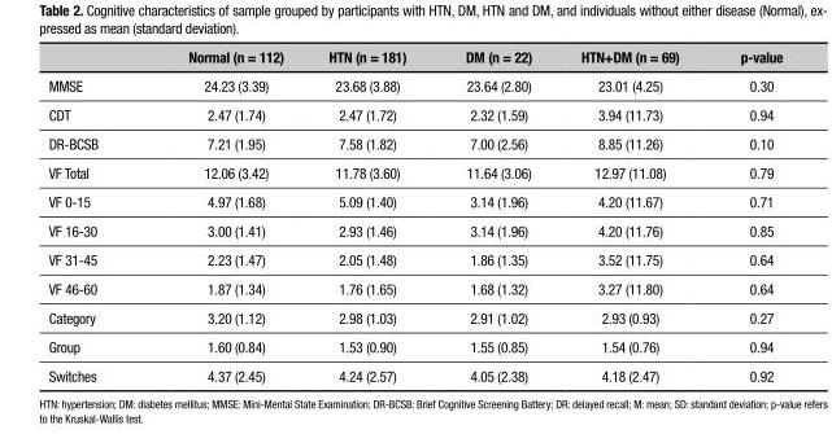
<table><thead><tr><td></td><td>Normal (n = 112)</td><td>HTN (n = 181)</td><td>DM (n = 22)</td><td>HTN+DM (n = 69)</td><td>p-value</td></tr></thead><tbody><tr><td>MMSE</td><td>24.23 (3.39)</td><td>23.68 (3.88)</td><td>23.64 (2.80)</td><td>23.01 (4.25)</td><td>0.30</td></tr><tr><td>CDT</td><td>2.47 (1.74)</td><td>2.47 (1.72)</td><td>2.32 (1.59)</td><td>3.94 (11.73)</td><td>0.94</td></tr><tr><td>DR-BCSB</td><td>7.21 (1.95)</td><td>7.58 (1.82)</td><td>7.00 (2.56)</td><td>8.85 (11.26)</td><td>0.10</td></tr><tr><td>VF Total</td><td>12.06 (3.42)</td><td>11.78 (3.60)</td><td>11.64 (3.06)</td><td>12.97 (11.08)</td><td>0.79</td></tr><tr><td>VF 0-15</td><td>4.97 (1.68)</td><td>5.09 (1.40)</td><td>3.14 (1.96)</td><td>4.20 (11.67)</td><td>0.71</td></tr><tr><td>VF 16-30</td><td>3.00 (1.41)</td><td>2.93 (1.46)</td><td>3.14 (1.96)</td><td>4.20 (11.76)</td><td>0.85</td></tr><tr><td>VF 31-45</td><td>2.23 (1.47)</td><td>2.05 (1.48)</td><td>1.86 (1.35)</td><td>3.52 (11.75)</td><td>0.64</td></tr><tr><td>VF 46-60</td><td>1.87 (1.34)</td><td>1.76 (1.65)</td><td>1.68 (1.32)</td><td>3.27 (11.80)</td><td>0.64</td></tr><tr><td>Category</td><td>3.20 (1.12)</td><td>2.98 (1.03)</td><td>2.91 (1.02)</td><td>2.93 (0.93)</td><td>0.27</td></tr><tr><td>Group</td><td>1.60 (0.84)</td><td>1.53 (0.90)</td><td>1.55 (0.85)</td><td>1.54 (0.76)</td><td>0.94</td></tr><tr><td>Switches</td><td>4.37 (2.45)</td><td>4.24 (2.57)</td><td>4.05 (2.38)</td><td>4.18 (2.47)</td><td>0.92</td></tr></tbody></table>